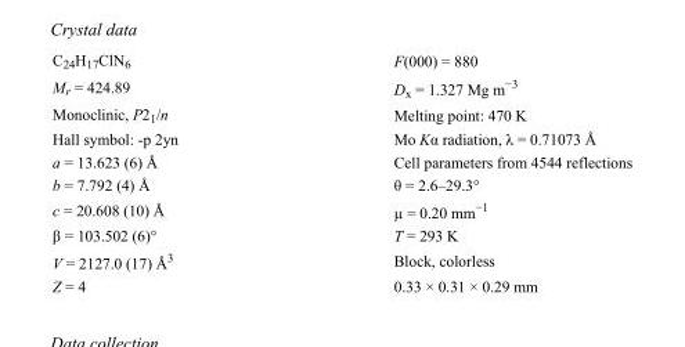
<table><tbody><tr><td>C<sub>24</sub>H<sub>17</sub>ClN<sub>6</sub></td><td>F(000) = 880</td></tr><tr><td>M<sub>r</sub> = 424.89</td><td>D<sub>x</sub> = 1.327 Mg m<sup>−3</sup></td></tr><tr><td>Monoclinic, P2<sub>1</sub>/n</td><td>Melting point: 470 K</td></tr><tr><td>Hall symbol: -p 2yn</td><td>Mo Kα radiation, λ = 0.71073 Å</td></tr><tr><td>a = 13.623 (6) Å</td><td>Cell parameters from 4544 reflections</td></tr><tr><td>b = 7.792 (4) Å</td><td>θ = 2.6–29.3°</td></tr><tr><td>c = 20.608 (10) Å</td><td>µ = 0.20 mm<sup>−1</sup></td></tr><tr><td>β = 103.502 (6)°</td><td>T = 293 K</td></tr><tr><td>V = 2127.0 (17) Å<sup>3</sup></td><td>Block, colorless</td></tr><tr><td>Z = 4</td><td>0.33 × 0.31 × 0.29 mm</td></tr></tbody></table>